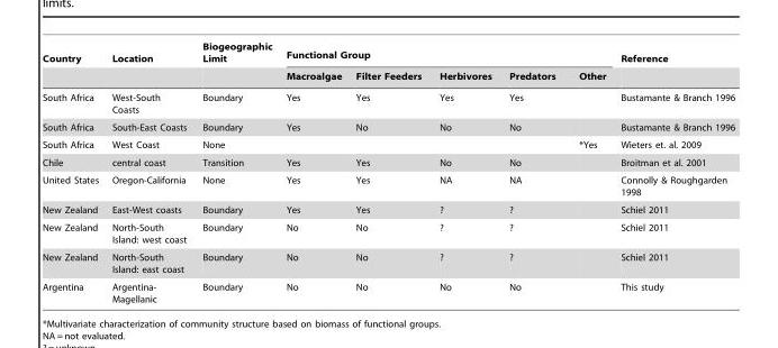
<table><thead><tr><td rowspan="2">Country</td><td rowspan="2">Location</td><td rowspan="2">Biogeographic Limit</td><td colspan="5">Functional Group</td><td rowspan="2">Reference</td></tr><tr><td>Macroalgae</td><td>Filter Feeders</td><td>Herbivores</td><td>Predators</td><td>Other</td></tr></thead><tbody><tr><td>South Africa</td><td>West-South Coasts</td><td>Boundary</td><td>Yes</td><td>Yes</td><td>Yes</td><td>Yes</td><td></td><td>Bustamante &amp; Branch 1996</td></tr><tr><td>South Africa</td><td>South-East Coasts</td><td>Boundary</td><td>Yes</td><td>No</td><td>No</td><td>No</td><td></td><td>Bustamante &amp; Branch 1996</td></tr><tr><td>South Africa</td><td>West Coast</td><td>None</td><td></td><td></td><td></td><td></td><td>*Yes</td><td>Wieters et. al. 2009</td></tr><tr><td>Chile</td><td>central coast</td><td>Transition</td><td>Yes</td><td>Yes</td><td>No</td><td>No</td><td></td><td>Broitman et al. 2001</td></tr><tr><td>United States</td><td>Oregon-California</td><td>None</td><td>Yes</td><td>Yes</td><td>NA</td><td>NA</td><td></td><td>Connolly &amp; Roughgarden 1998</td></tr><tr><td>New Zealand</td><td>East-West coasts</td><td>Boundary</td><td>Yes</td><td>Yes</td><td>?</td><td>?</td><td></td><td>Schiel 2011</td></tr><tr><td>New Zealand</td><td>North-South Island: west coast</td><td>Boundary</td><td>No</td><td>No</td><td>?</td><td>?</td><td></td><td>Schiel 2011</td></tr><tr><td>New Zealand</td><td>North-South Island: east coast</td><td>Boundary</td><td>No</td><td>No</td><td>?</td><td>?</td><td></td><td>Schiel 2011</td></tr><tr><td>Argentina</td><td>Argentina- Magellanic</td><td>Boundary</td><td>No</td><td>No</td><td>No</td><td>No</td><td></td><td>This study</td></tr></tbody></table>